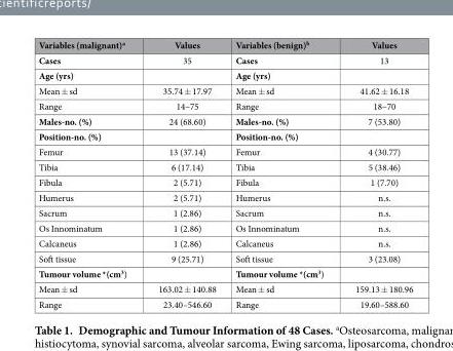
<table><thead><tr><td>Variables (malignant)<sup>a</sup></td><td>Values</td><td>Variables (benign)<sup>b</sup></td><td>Values</td></tr></thead><tbody><tr><td>Cases</td><td>35</td><td>Cases</td><td>13</td></tr><tr><td>Age (yrs)</td><td></td><td>Age (yrs)</td><td></td></tr><tr><td>Mean ± sd</td><td>35.74 ± 17.97</td><td>Mean ± sd</td><td>41.62 ± 16.18</td></tr><tr><td>Range</td><td>14–75</td><td>Range</td><td>18–70</td></tr><tr><td>Males-no. (%)</td><td>24 (68.60)</td><td>Males-no. (%)</td><td>7 (53.80)</td></tr><tr><td>Position-no. (%)</td><td></td><td>Position-no. (%)</td><td></td></tr><tr><td>Femur</td><td>13 (37.14)</td><td>Femur</td><td>4 (30.77)</td></tr><tr><td>Tibia</td><td>6 (17.14)</td><td>Tibia</td><td>5 (38.46)</td></tr><tr><td>Fibula</td><td>2 (5.71)</td><td>Fibula</td><td>1 (7.70)</td></tr><tr><td>Humerus</td><td>2 (5.71)</td><td>Humerus</td><td>n.s.</td></tr><tr><td>Sacrum</td><td>1 (2.86)</td><td>Sacrum</td><td>n.s.</td></tr><tr><td>Os Innominatum</td><td>1 (2.86)</td><td>Os Innominatum</td><td>n.s.</td></tr><tr><td>Calcaneus</td><td>1 (2.86)</td><td>Calcaneus</td><td>n.s.</td></tr><tr><td>Soft tissue</td><td>9 (25.71)</td><td>Soft tissue</td><td>3 (23.08)</td></tr><tr><td>Tumour volume *(cm<sup>3</sup>)</td><td></td><td>Tumour volume *(cm<sup>3</sup>)</td><td></td></tr><tr><td>Mean ± sd</td><td>163.02 ± 140.88</td><td>Mean ± sd</td><td>159.13 ± 180.96</td></tr><tr><td>Range</td><td>23.40–546.60</td><td>Range</td><td>19.60–588.60</td></tr></tbody></table>